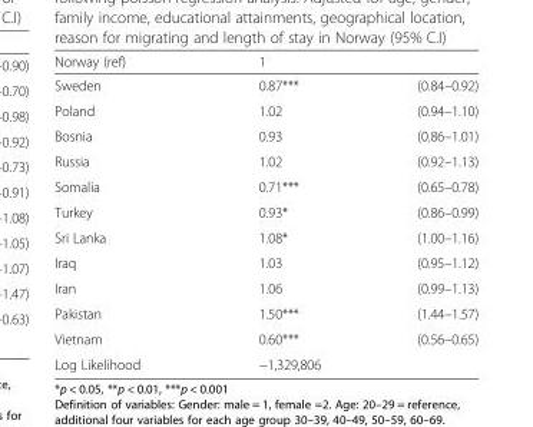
<table><thead><tr><td>Norway (ref)</td><td>1</td><td></td></tr></thead><tbody><tr><td>Sweden</td><td>0.87***</td><td>(0.84–0.92)</td></tr><tr><td>Poland</td><td>1.02</td><td>(0.94–1.10)</td></tr><tr><td>Bosnia</td><td>0.93</td><td>(0.86–1.01)</td></tr><tr><td>Russia</td><td>1.02</td><td>(0.92–1.13)</td></tr><tr><td>Somalia</td><td>0.71***</td><td>(0.65–0.78)</td></tr><tr><td>Turkey</td><td>0.93*</td><td>(0.86–0.99)</td></tr><tr><td>Sri Lanka</td><td>1.08*</td><td>(1.00–1.16)</td></tr><tr><td>Iraq</td><td>1.03</td><td>(0.95–1.12)</td></tr><tr><td>Iran</td><td>1.06</td><td>(0.99–1.13)</td></tr><tr><td>Pakistan</td><td>1.50***</td><td>(1.44–1.57)</td></tr><tr><td>Vietnam</td><td>0.60***</td><td>(0.56–0.65)</td></tr><tr><td>Log Likelihood</td><td colspan="2">−1,329,806</td></tr></tbody></table>